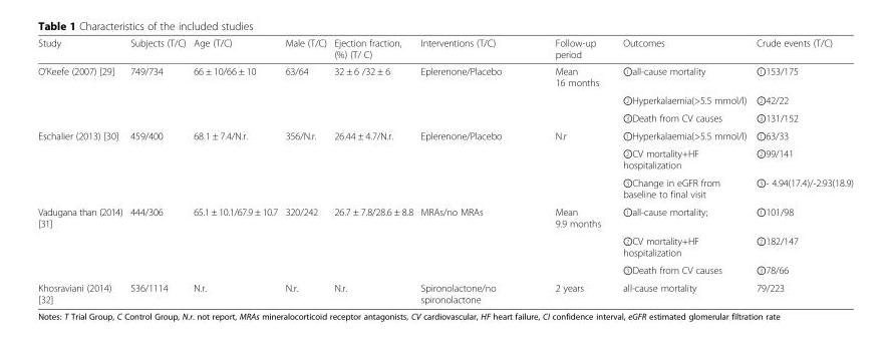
<table><thead><tr><td>Study</td><td>Subjects (T/C)</td><td>Age (T/C)</td><td>Male (T/C)</td><td>Ejection fraction, (%) (T/ C)</td><td>Interventions (T/C)</td><td>Follow-up period</td><td>Outcomes</td><td>Crude events (T/C)</td></tr></thead><tbody><tr><td rowspan="3">O’Keefe (2007) [29]</td><td>749/734</td><td>66 ± 10/66 ± 10</td><td>63/64</td><td>32 ± 6 /32 ± 6</td><td>Eplerenone/Placebo</td><td>Mean 16 months</td><td>①all-cause mortality</td><td>①153/175</td></tr><tr><td></td><td></td><td></td><td></td><td></td><td></td><td>②Hyperkalaemia(&gt;5.5 mmol/l)</td><td>②42/22</td></tr><tr><td></td><td></td><td></td><td></td><td></td><td></td><td>③Death from CV causes</td><td>③131/152</td></tr><tr><td rowspan="3">Eschalier (2013) [30]</td><td>459/400</td><td>68.1 ± 7.4/N.r.</td><td>356/N.r.</td><td>26.44 ± 4.7/N.r.</td><td>Eplerenone/Placebo</td><td>N.r</td><td>①Hyperkalaemia(&gt;5.5 mmol/l)</td><td>①63/33</td></tr><tr><td></td><td></td><td></td><td></td><td></td><td></td><td>②CV mortality+HF hospitalization</td><td>②99/141</td></tr><tr><td></td><td></td><td></td><td></td><td></td><td></td><td>③Change in eGFR from baseline to final visit</td><td>③- 4.94(17.4)/-2.93(18.9)</td></tr><tr><td rowspan="3">Vadugana than (2014) [31]</td><td>444/306</td><td>65.1 ± 10.1/67.9 ± 10.7</td><td>320/242</td><td>26.7 ± 7.8/28.6 ± 8.8</td><td>MRAs/no MRAs</td><td>Mean 9.9 months</td><td>①all-cause mortality;</td><td>①101/98</td></tr><tr><td></td><td></td><td></td><td></td><td></td><td></td><td>②CV mortality+HF hospitalization</td><td>②182/147</td></tr><tr><td></td><td></td><td></td><td></td><td></td><td></td><td>③Death from CV causes</td><td>③78/66</td></tr><tr><td>Khosraviani (2014) [32]</td><td>536/1114</td><td>N.r.</td><td>N.r.</td><td>N.r.</td><td>Spironolactone/no spironolactone</td><td>2 years</td><td>all-cause mortality</td><td>79/223</td></tr></tbody></table>